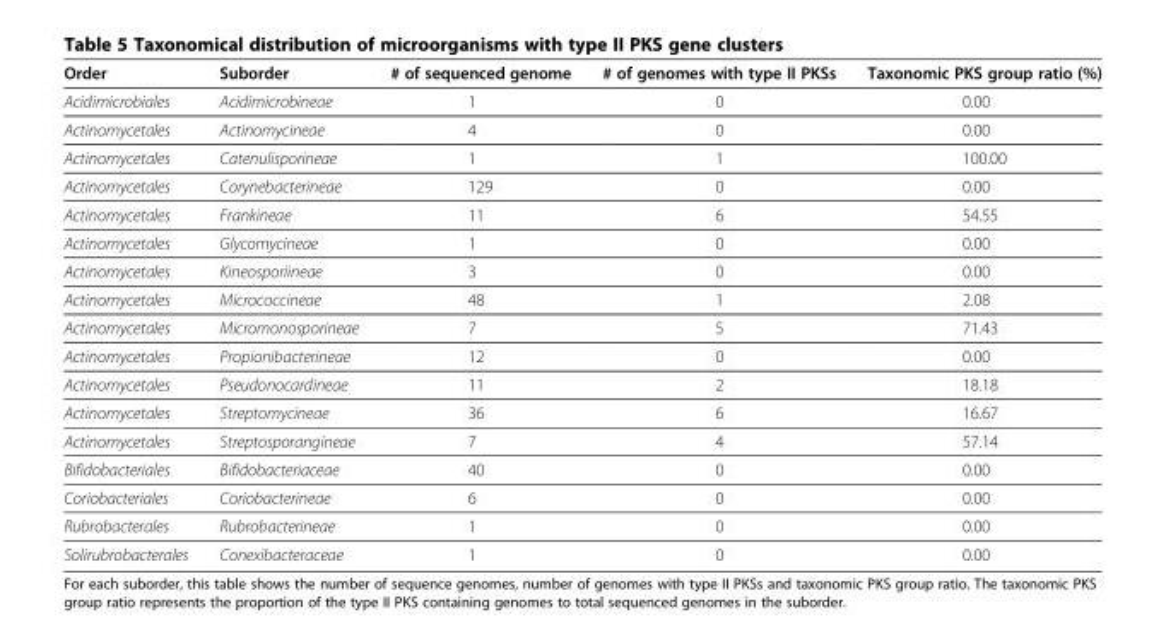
<table><thead><tr><td>Order</td><td>Suborder</td><td># of sequenced genome</td><td># of genomes with type II PKSs</td><td>Taxonomic PKS group ratio (%)</td></tr></thead><tbody><tr><td>Acidimicrobiales</td><td>Acidimicrobineae</td><td>1</td><td>0</td><td>0.00</td></tr><tr><td>Actinomycetales</td><td>Actinomycineae</td><td>4</td><td>0</td><td>0.00</td></tr><tr><td>Actinomycetales</td><td>Catenulisporineae</td><td>1</td><td>1</td><td>100.00</td></tr><tr><td>Actinomycetales</td><td>Corynebacterineae</td><td>129</td><td>0</td><td>0.00</td></tr><tr><td>Actinomycetales</td><td>Frankineae</td><td>11</td><td>6</td><td>54.55</td></tr><tr><td>Actinomycetales</td><td>Glycomycineae</td><td>1</td><td>0</td><td>0.00</td></tr><tr><td>Actinomycetales</td><td>Kineosporiineae</td><td>3</td><td>0</td><td>0.00</td></tr><tr><td>Actinomycetales</td><td>Micrococcineae</td><td>48</td><td>1</td><td>2.08</td></tr><tr><td>Actinomycetales</td><td>Micromonosporineae</td><td>7</td><td>5</td><td>71.43</td></tr><tr><td>Actinomycetales</td><td>Propionibacterineae</td><td>12</td><td>0</td><td>0.00</td></tr><tr><td>Actinomycetales</td><td>Pseudonocardineae</td><td>11</td><td>2</td><td>18.18</td></tr><tr><td>Actinomycetales</td><td>Streptomycineae</td><td>36</td><td>6</td><td>16.67</td></tr><tr><td>Actinomycetales</td><td>Streptosporangineae</td><td>7</td><td>4</td><td>57.14</td></tr><tr><td>Bifidobacteriales</td><td>Bifidobacteriaceae</td><td>40</td><td>0</td><td>0.00</td></tr><tr><td>Coriobacteriales</td><td>Coriobacterineae</td><td>6</td><td>0</td><td>0.00</td></tr><tr><td>Rubrobacterales</td><td>Rubrobacterineae</td><td>1</td><td>0</td><td>0.00</td></tr><tr><td>Solirubrobacterales</td><td>Conexibacteraceae</td><td>1</td><td>0</td><td>0.00</td></tr></tbody></table>